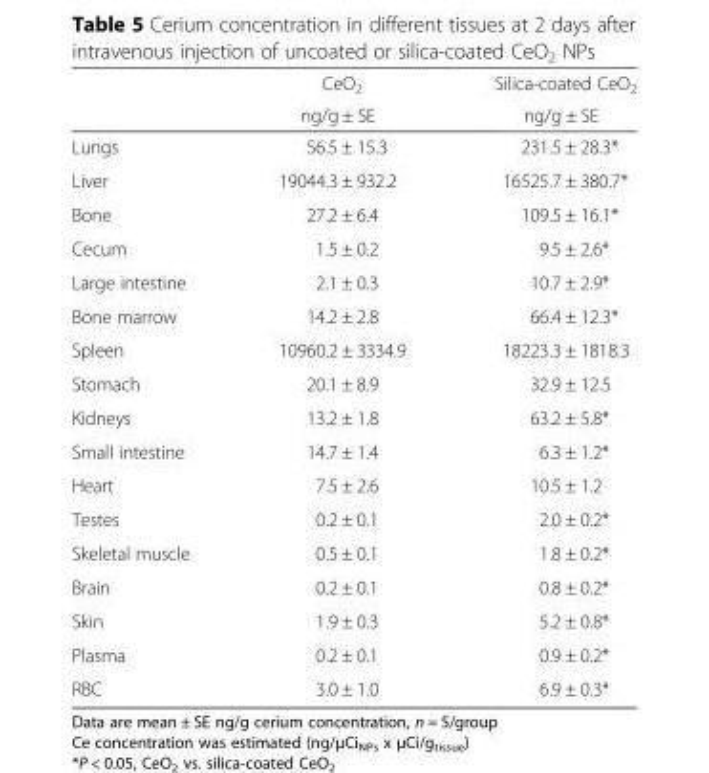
<table><thead><tr><td rowspan="2"></td><td rowspan="2">CeO<sub>2</sub> ng/g ± SE</td><td rowspan="2">Silica-coated CeO<sub>2</sub> ng/g ± SE</td></tr><tr></tr></thead><tbody><tr><td>Lungs</td><td>56.5 ± 15.3</td><td>231.5 ± 28.3*</td></tr><tr><td>Liver</td><td>19044.3 ± 932.2</td><td>16525.7 ± 380.7*</td></tr><tr><td>Bone</td><td>27.2 ± 6.4</td><td>109.5 ± 16.1*</td></tr><tr><td>Cecum</td><td>1.5 ± 0.2</td><td>9.5 ± 2.6*</td></tr><tr><td>Large intestine</td><td>2.1 ± 0.3</td><td>10.7 ± 2.9*</td></tr><tr><td>Bone marrow</td><td>14.2 ± 2.8</td><td>66.4 ± 12.3*</td></tr><tr><td>Spleen</td><td>10960.2 ± 3334.9</td><td>18223.3 ± 1818.3</td></tr><tr><td>Stomach</td><td>20.1 ± 8.9</td><td>32.9 ± 12.5</td></tr><tr><td>Kidneys</td><td>13.2 ± 1.8</td><td>63.2 ± 5.8*</td></tr><tr><td>Small intestine</td><td>14.7 ± 1.4</td><td>6.3 ± 1.2*</td></tr><tr><td>Heart</td><td>7.5 ± 2.6</td><td>10.5 ± 1.2</td></tr><tr><td>Testes</td><td>0.2 ± 0.1</td><td>2.0 ± 0.2*</td></tr><tr><td>Skeletal muscle</td><td>0.5 ± 0.1</td><td>1.8 ± 0.2*</td></tr><tr><td>Brain</td><td>0.2 ± 0.1</td><td>0.8 ± 0.2*</td></tr><tr><td>Skin</td><td>1.9 ± 0.3</td><td>5.2 ± 0.8*</td></tr><tr><td>Plasma</td><td>0.2 ± 0.1</td><td>0.9 ± 0.2*</td></tr><tr><td>RBC</td><td>3.0 ± 1.0</td><td>6.9 ± 0.3*</td></tr></tbody></table>